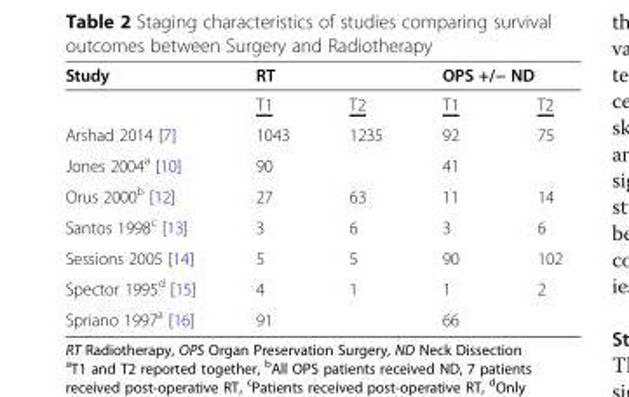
<table><thead><tr><td rowspan="2">Study</td><td colspan="2">RT</td><td colspan="2">OPS +/− ND</td></tr><tr><td>T1</td><td>T2</td><td>T1</td><td>T2</td></tr></thead><tbody><tr><td>Arshad 2014 [7]</td><td>1043</td><td>1235</td><td>92</td><td>75</td></tr><tr><td>Jones 2004<sup>a</sup> [10]</td><td colspan="2">90</td><td colspan="2">41</td></tr><tr><td>Orus 2000<sup>b</sup> [12]</td><td>27</td><td>63</td><td>11</td><td>14</td></tr><tr><td>Santos 1998<sup>c</sup> [13]</td><td>3</td><td>6</td><td>3</td><td>6</td></tr><tr><td>Sessions 2005 [14]</td><td>5</td><td>5</td><td>90</td><td>102</td></tr><tr><td>Spector 1995<sup>d</sup> [15]</td><td>4</td><td>1</td><td>1</td><td>2</td></tr><tr><td>Spriano 1997<sup>a</sup> [16]</td><td colspan="2">91</td><td colspan="2">66</td></tr></tbody></table>